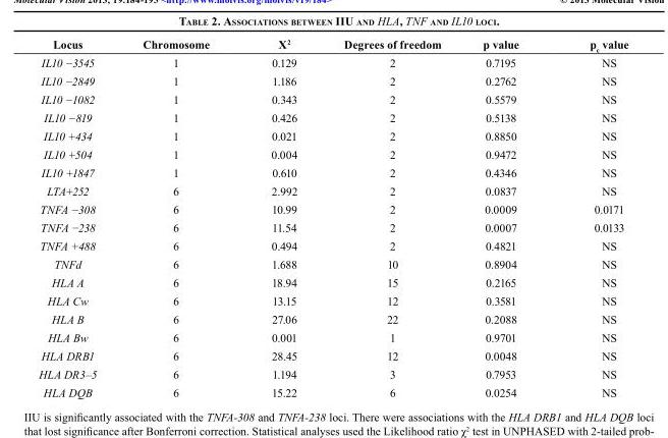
<table><thead><tr><td>Locus</td><td>Chromosome</td><td>X<sup>2</sup></td><td>Degrees of freedom</td><td>p value</td><td>p<sub>c</sub> value</td></tr></thead><tbody><tr><td>IL10 −3545</td><td>1</td><td>0.129</td><td>2</td><td>0.7195</td><td>NS</td></tr><tr><td>IL10 −2849</td><td>1</td><td>1.186</td><td>2</td><td>0.2762</td><td>NS</td></tr><tr><td>IL10 −1082</td><td>1</td><td>0.343</td><td>2</td><td>0.5579</td><td>NS</td></tr><tr><td>IL10 −819</td><td>1</td><td>0.426</td><td>2</td><td>0.5138</td><td>NS</td></tr><tr><td>IL10 +434</td><td>1</td><td>0.021</td><td>2</td><td>0.8850</td><td>NS</td></tr><tr><td>IL10 +504</td><td>1</td><td>0.004</td><td>2</td><td>0.9472</td><td>NS</td></tr><tr><td>IL10 +1847</td><td>1</td><td>0.610</td><td>2</td><td>0.4346</td><td>NS</td></tr><tr><td>LTA+252</td><td>6</td><td>2.992</td><td>2</td><td>0.0837</td><td>NS</td></tr><tr><td>TNFA −308</td><td>6</td><td>10.99</td><td>2</td><td>0.0009</td><td>0.0171</td></tr><tr><td>TNFA −238</td><td>6</td><td>11.54</td><td>2</td><td>0.0007</td><td>0.0133</td></tr><tr><td>TNFA +488</td><td>6</td><td>0.494</td><td>2</td><td>0.4821</td><td>NS</td></tr><tr><td>TNFd</td><td>6</td><td>1.688</td><td>10</td><td>0.8904</td><td>NS</td></tr><tr><td>HLA A</td><td>6</td><td>18.94</td><td>15</td><td>0.2165</td><td>NS</td></tr><tr><td>HLA Cw</td><td>6</td><td>13.15</td><td>12</td><td>0.3581</td><td>NS</td></tr><tr><td>HLA B</td><td>6</td><td>27.06</td><td>22</td><td>0.2088</td><td>NS</td></tr><tr><td>HLA Bw</td><td>6</td><td>0.001</td><td>1</td><td>0.9701</td><td>NS</td></tr><tr><td>HLA DRB1</td><td>6</td><td>28.45</td><td>12</td><td>0.0048</td><td>NS</td></tr><tr><td>HLA DR3–5</td><td>6</td><td>1.194</td><td>3</td><td>0.7953</td><td>NS</td></tr><tr><td>HLA DQB</td><td>6</td><td>15.22</td><td>6</td><td>0.0254</td><td>NS</td></tr></tbody></table>